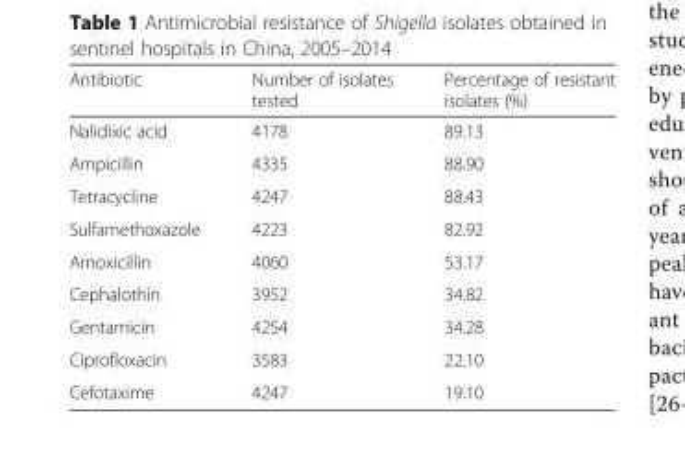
<table><thead><tr><td>Antibiotic</td><td>Number of isolates tested</td><td>Percentage of resistant isolates (%)</td></tr></thead><tbody><tr><td>Nalidixic acid</td><td>4178</td><td>89.13</td></tr><tr><td>Ampicillin</td><td>4335</td><td>88.90</td></tr><tr><td>Tetracycline</td><td>4247</td><td>88.43</td></tr><tr><td>Sulfamethoxazole</td><td>4223</td><td>82.92</td></tr><tr><td>Amoxicillin</td><td>4060</td><td>53.17</td></tr><tr><td>Cephalothin</td><td>3952</td><td>34.82</td></tr><tr><td>Gentamicin</td><td>4254</td><td>34.28</td></tr><tr><td>Ciprofloxacin</td><td>3583</td><td>22.10</td></tr><tr><td>Cefotaxime</td><td>4247</td><td>19.10</td></tr></tbody></table>